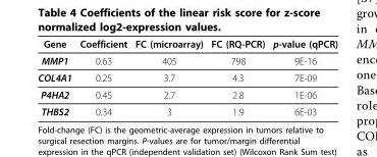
<table><thead><tr><td>Gene</td><td>Coefficient</td><td>FC (microarray)</td><td>FC (RQ-PCR)</td><td>p-value (qPCR)</td></tr></thead><tbody><tr><td>MMP1</td><td>0.63</td><td>405</td><td>798</td><td>9E-16</td></tr><tr><td>COL4A1</td><td>0.25</td><td>3.7</td><td>4.3</td><td>7E-09</td></tr><tr><td>P4HA2</td><td>0.45</td><td>2.7</td><td>2.8</td><td>1E-06</td></tr><tr><td>THBS2</td><td>0.34</td><td>3</td><td>1.9</td><td>6E-03</td></tr></tbody></table>